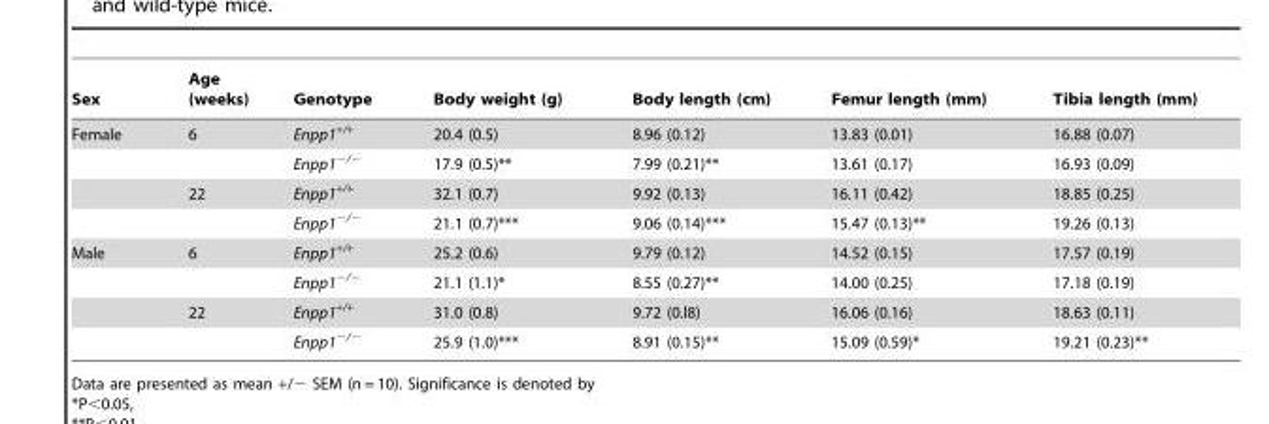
<table><thead><tr><td>Sex</td><td>Age (weeks)</td><td>Genotype</td><td>Body weight (g)</td><td>Body length (cm)</td><td>Femur length (mm)</td><td>Tibia length (mm)</td></tr></thead><tbody><tr><td rowspan="4">Female</td><td>6</td><td>Enpp1<sup>+/+</sup></td><td>20.4 (0.5)</td><td>8.96 (0.12)</td><td>13.83 (0.01)</td><td>16.88 (0.07)</td></tr><tr><td></td><td>Enpp1<sup>−/−</sup></td><td>17.9 (0.5)**</td><td>7.99 (0.21)**</td><td>13.61 (0.17)</td><td>16.93 (0.09)</td></tr><tr><td>22</td><td>Enpp1<sup>+/+</sup></td><td>32.1 (0.7)</td><td>9.92 (0.13)</td><td>16.11 (0.42)</td><td>18.85 (0.25)</td></tr><tr><td></td><td>Enpp1<sup>−/−</sup></td><td>21.1 (0.7)***</td><td>9.06 (0.14)***</td><td>15.47 (0.13)**</td><td>19.26 (0.13)</td></tr><tr><td rowspan="4">Male</td><td>6</td><td>Enpp1<sup>+/+</sup></td><td>25.2 (0.6)</td><td>9.79 (0.12)</td><td>14.52 (0.15)</td><td>17.57 (0.19)</td></tr><tr><td></td><td>Enpp1<sup>−/−</sup></td><td>21.1 (1.1)*</td><td>8.55 (0.27)**</td><td>14.00 (0.25)</td><td>17.18 (0.19)</td></tr><tr><td>22</td><td>Enpp1<sup>+/+</sup></td><td>31.0 (0.8)</td><td>9.72 (0.l8)</td><td>16.06 (0.16)</td><td>18.63 (0.11)</td></tr><tr><td></td><td>Enpp1<sup>−/−</sup></td><td>25.9 (1.0)***</td><td>8.91 (0.15)**</td><td>15.09 (0.59)*</td><td>19.21 (0.23)**</td></tr></tbody></table>